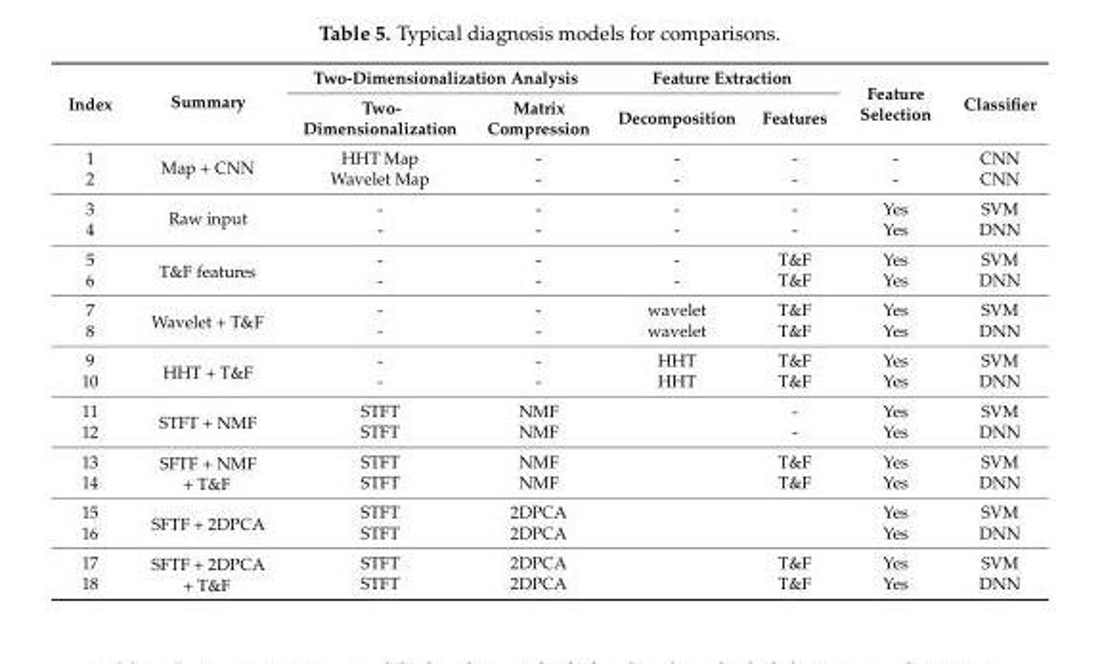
<table><thead><tr><td rowspan="2">Index</td><td rowspan="2">Summary</td><td colspan="2">Two-Dimensionalization Analysis</td><td colspan="2">Feature Extraction</td><td rowspan="2">Feature Selection</td><td rowspan="2">Classifier</td></tr><tr><td>Two- Dimensionalization</td><td>Matrix Compression</td><td>Decomposition</td><td>Features</td></tr></thead><tbody><tr><td>1</td><td rowspan="2">Map + CNN</td><td>HHT Map</td><td>-</td><td>-</td><td>-</td><td>-</td><td>CNN</td></tr><tr><td>2</td><td>Wavelet Map</td><td>-</td><td>-</td><td>-</td><td>-</td><td>CNN</td></tr><tr><td>3</td><td rowspan="2">Raw input</td><td>-</td><td>-</td><td>-</td><td>-</td><td>Yes</td><td>SVM</td></tr><tr><td>4</td><td>-</td><td>-</td><td>-</td><td>-</td><td>Yes</td><td>DNN</td></tr><tr><td>5</td><td rowspan="2">T&amp;F features</td><td>-</td><td>-</td><td>-</td><td>T&amp;F</td><td>Yes</td><td>SVM</td></tr><tr><td>6</td><td>-</td><td>-</td><td>-</td><td>T&amp;F</td><td>Yes</td><td>DNN</td></tr><tr><td>7</td><td rowspan="2">Wavelet + T&amp;F</td><td>-</td><td>-</td><td>wavelet</td><td>T&amp;F</td><td>Yes</td><td>SVM</td></tr><tr><td>8</td><td>-</td><td>-</td><td>wavelet</td><td>T&amp;F</td><td>Yes</td><td>DNN</td></tr><tr><td>9</td><td rowspan="2">HHT + T&amp;F</td><td>-</td><td>-</td><td>HHT</td><td>T&amp;F</td><td>Yes</td><td>SVM</td></tr><tr><td>10</td><td>-</td><td>-</td><td>HHT</td><td>T&amp;F</td><td>Yes</td><td>DNN</td></tr><tr><td>11</td><td rowspan="2">STFT + NMF</td><td>STFT</td><td>NMF</td><td></td><td>-</td><td>Yes</td><td>SVM</td></tr><tr><td>12</td><td>STFT</td><td>NMF</td><td></td><td>-</td><td>Yes</td><td>DNN</td></tr><tr><td>13</td><td rowspan="2">SFTF + NMF + T&amp;F</td><td>STFT</td><td>NMF</td><td></td><td>T&amp;F</td><td>Yes</td><td>SVM</td></tr><tr><td>14</td><td>STFT</td><td>NMF</td><td></td><td>T&amp;F</td><td>Yes</td><td>DNN</td></tr><tr><td>15</td><td rowspan="2">SFTF + 2DPCA</td><td>STFT</td><td>2DPCA</td><td></td><td></td><td>Yes</td><td>SVM</td></tr><tr><td>16</td><td>STFT</td><td>2DPCA</td><td></td><td></td><td>Yes</td><td>DNN</td></tr><tr><td>17</td><td rowspan="2">SFTF + 2DPCA + T&amp;F</td><td>STFT</td><td>2DPCA</td><td></td><td>T&amp;F</td><td>Yes</td><td>SVM</td></tr><tr><td>18</td><td>STFT</td><td>2DPCA</td><td></td><td>T&amp;F</td><td>Yes</td><td>DNN</td></tr></tbody></table>